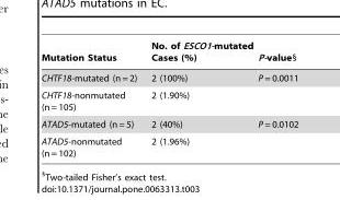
<table><thead><tr><td>Mutation Status</td><td>No. of ESCO1-mutated Cases (%)</td><td>P-value§</td></tr></thead><tbody><tr><td>CHTF18-mutated (n = 2)</td><td>2 (100%)</td><td>P = 0.0011</td></tr><tr><td>CHTF18-nonmutated (n = 105)</td><td>2 (1.90%)</td><td></td></tr><tr><td>ATAD5-mutated (n = 5)</td><td>2 (40%)</td><td>P = 0.0102</td></tr><tr><td>ATAD5-nonmutated (n = 102)</td><td>2 (1.96%)</td><td></td></tr></tbody></table>